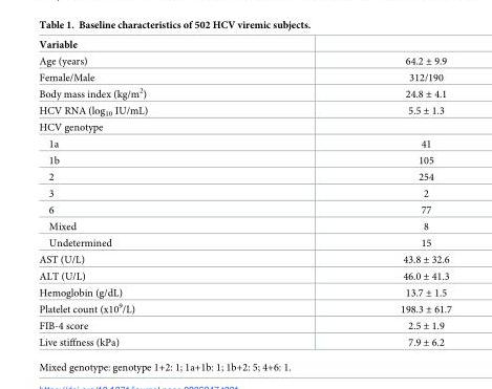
<table><thead><tr><td>Variable</td><td></td></tr></thead><tbody><tr><td>Age (years)</td><td>64.2 ± 9.9</td></tr><tr><td>Female/Male</td><td>312/190</td></tr><tr><td>Body mass index (kg/m<sup>2</sup>)</td><td>24.8 ± 4.1</td></tr><tr><td>HCV RNA (log<sub>10</sub> IU/mL)</td><td>5.5 ± 1.3</td></tr><tr><td colspan="2">HCV genotype</td></tr><tr><td>1a</td><td>41</td></tr><tr><td>1b</td><td>105</td></tr><tr><td>2</td><td>254</td></tr><tr><td>3</td><td>2</td></tr><tr><td>6</td><td>77</td></tr><tr><td>Mixed</td><td>8</td></tr><tr><td>Undetermined</td><td>15</td></tr><tr><td>AST (U/L)</td><td>43.8 ± 32.6</td></tr><tr><td>ALT (U/L)</td><td>46.0 ± 41.3</td></tr><tr><td>Hemoglobin (g/dL)</td><td>13.7 ± 1.5</td></tr><tr><td>Platelet count (x10<sup>9</sup>/L)</td><td>198.3 ± 61.7</td></tr><tr><td>FIB-4 score</td><td>2.5 ± 1.9</td></tr><tr><td>Live stiffness (kPa)</td><td>7.9 ± 6.2</td></tr></tbody></table>